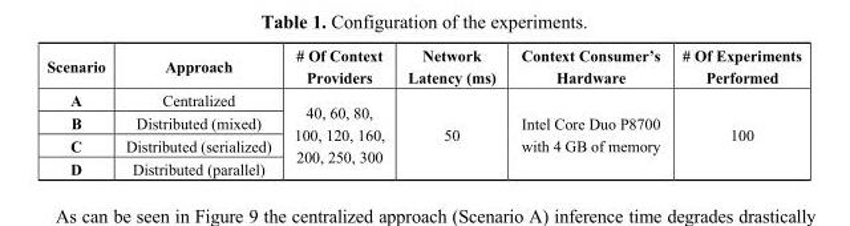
<table><thead><tr><td>Scenario</td><td>Approach</td><td># Of Context Providers</td><td>Network Latency (ms)</td><td>Context Consumer’s Hardware</td><td># Of Experiments Performed</td></tr></thead><tbody><tr><td>A</td><td>Centralized</td><td rowspan="4">40, 60, 80, 100, 120, 160, 200, 250, 300</td><td rowspan="4">50</td><td rowspan="4">Intel Core Duo P8700 with 4 GB of memory</td><td rowspan="4">100</td></tr><tr><td>B</td><td>Distributed (mixed)</td></tr><tr><td>C</td><td>Distributed (serialized)</td></tr><tr><td>D</td><td>Distributed (parallel)</td></tr></tbody></table>